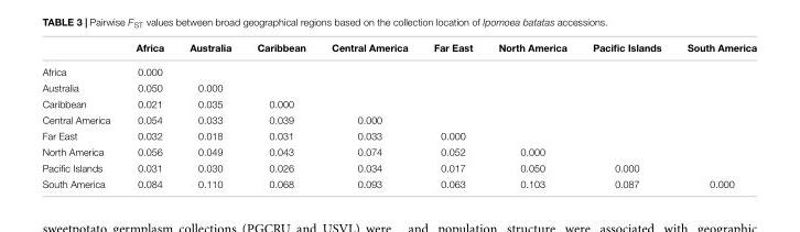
<table><thead><tr><td></td><td>Africa</td><td>Australia</td><td>Caribbean</td><td>Central America</td><td>Far East</td><td>North America</td><td>Pacific Islands</td><td>South America</td></tr></thead><tbody><tr><td>Africa</td><td>0.000</td><td></td><td></td><td></td><td></td><td></td><td></td><td></td></tr><tr><td>Australia</td><td>0.050</td><td>0.000</td><td></td><td></td><td></td><td></td><td></td><td></td></tr><tr><td>Caribbean</td><td>0.021</td><td>0.035</td><td>0.000</td><td></td><td></td><td></td><td></td><td></td></tr><tr><td>Central America</td><td>0.054</td><td>0.033</td><td>0.039</td><td>0.000</td><td></td><td></td><td></td><td></td></tr><tr><td>Far East</td><td>0.032</td><td>0.018</td><td>0.031</td><td>0.033</td><td>0.000</td><td></td><td></td><td></td></tr><tr><td>North America</td><td>0.056</td><td>0.049</td><td>0.043</td><td>0.074</td><td>0.052</td><td>0.000</td><td></td><td></td></tr><tr><td>Pacific Islands</td><td>0.031</td><td>0.030</td><td>0.026</td><td>0.034</td><td>0.017</td><td>0.050</td><td>0.000</td><td></td></tr><tr><td>South America</td><td>0.084</td><td>0.110</td><td>0.068</td><td>0.093</td><td>0.063</td><td>0.103</td><td>0.087</td><td>0.000</td></tr></tbody></table>